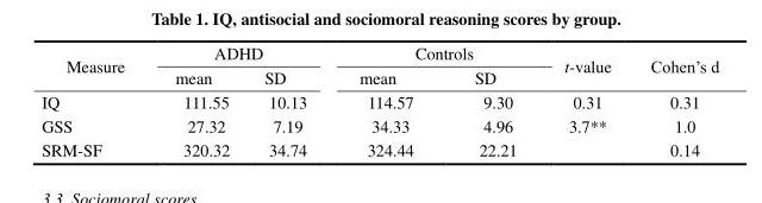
<table><thead><tr><td rowspan="2">Measure</td><td colspan="2">ADHD</td><td colspan="2">Controls</td><td rowspan="2">t-value</td><td rowspan="2">Cohen’s d</td></tr><tr><td>mean</td><td>SD</td><td>mean</td><td>SD</td></tr></thead><tbody><tr><td>IQ</td><td>111.55</td><td>10.13</td><td>114.57</td><td>9.30</td><td>0.31</td><td>0.31</td></tr><tr><td>GSS</td><td>27.32</td><td>7.19</td><td>34.33</td><td>4.96</td><td>3.7**</td><td>1.0</td></tr><tr><td>SRM-SF</td><td>320.32</td><td>34.74</td><td>324.44</td><td>22.21</td><td></td><td>0.14</td></tr></tbody></table>